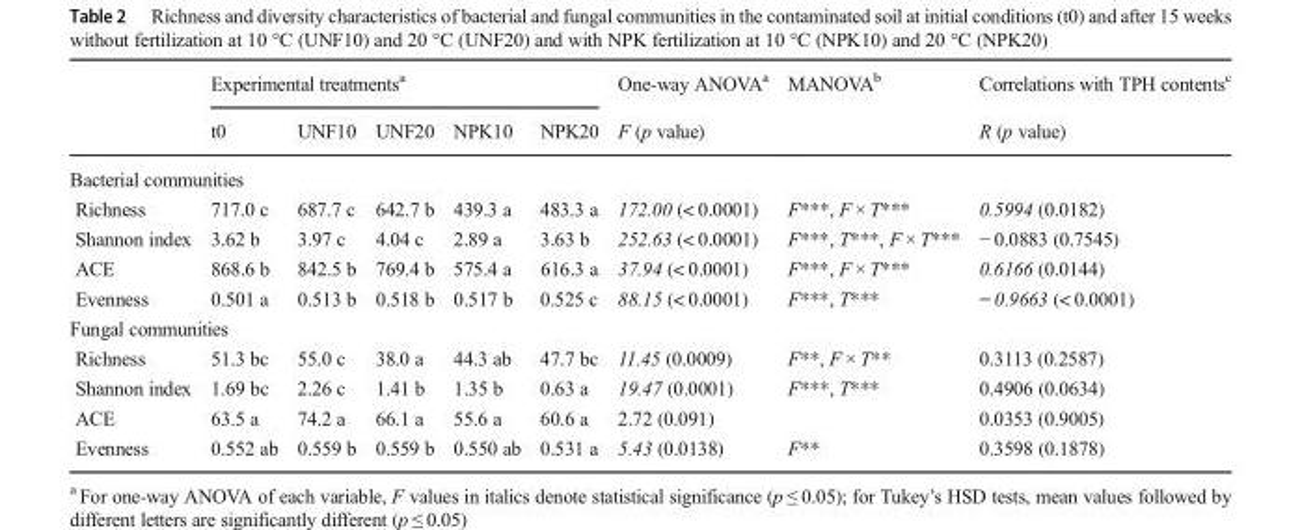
<table><thead><tr><td rowspan="2"></td><td colspan="5">Experimental treatments<sup>a</sup></td><td rowspan="2">One-way ANOVA<sup>a</sup> F (p value)</td><td rowspan="2">MANOVA<sup>b</sup></td><td rowspan="2">Correlations with TPH contents<sup>c</sup> R (p value)</td></tr><tr><td>t0</td><td>UNF10</td><td>UNF20</td><td>NPK10</td><td>NPK20</td></tr></thead><tbody><tr><td colspan="9">Bacterial communities</td></tr><tr><td>Richness</td><td>717.0 c</td><td>687.7 c</td><td>642.7 b</td><td>439.3 a</td><td>483.3 a</td><td>172.00 (&lt; 0.0001)</td><td>F***, F × T***</td><td>0.5994 (0.0182)</td></tr><tr><td>Shannon index</td><td>3.62 b</td><td>3.97 c</td><td>4.04 c</td><td>2.89 a</td><td>3.63 b</td><td>252.63 (&lt; 0.0001)</td><td>F***, T***, F × T***</td><td>− 0.0883 (0.7545)</td></tr><tr><td>ACE</td><td>868.6 b</td><td>842.5 b</td><td>769.4 b</td><td>575.4 a</td><td>616.3 a</td><td>37.94 (&lt; 0.0001)</td><td>F***, F × T***</td><td>0.6166 (0.0144)</td></tr><tr><td>Evenness</td><td>0.501 a</td><td>0.513 b</td><td>0.518 b</td><td>0.517 b</td><td>0.525 c</td><td>88.15 (&lt; 0.0001)</td><td>F***, T***</td><td>− 0.9663 (&lt; 0.0001)</td></tr><tr><td colspan="9">Fungal communities</td></tr><tr><td>Richness</td><td>51.3 bc</td><td>55.0 c</td><td>38.0 a</td><td>44.3 ab</td><td>47.7 bc</td><td>11.45 (0.0009)</td><td>F**, F × T**</td><td>0.3113 (0.2587)</td></tr><tr><td>Shannon index</td><td>1.69 bc</td><td>2.26 c</td><td>1.41 b</td><td>1.35 b</td><td>0.63 a</td><td>19.47 (0.0001)</td><td>F***, T***</td><td>0.4906 (0.0634)</td></tr><tr><td>ACE</td><td>63.5 a</td><td>74.2 a</td><td>66.1 a</td><td>55.6 a</td><td>60.6 a</td><td>2.72 (0.091)</td><td></td><td>0.0353 (0.9005)</td></tr><tr><td>Evenness</td><td>0.552 ab</td><td>0.559 b</td><td>0.559 b</td><td>0.550 ab</td><td>0.531 a</td><td>5.43 (0.0138)</td><td>F**</td><td>0.3598 (0.1878)</td></tr></tbody></table>